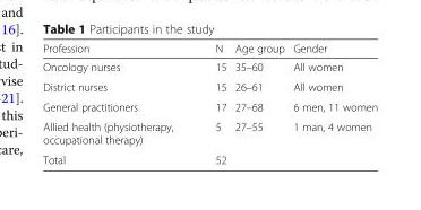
<table><thead><tr><td>Profession</td><td>N</td><td>Age group</td><td>Gender</td></tr></thead><tbody><tr><td>Oncology nurses</td><td>15</td><td>35–60</td><td>All women</td></tr><tr><td>District nurses</td><td>15</td><td>26–61</td><td>All women</td></tr><tr><td>General practitioners</td><td>17</td><td>27–68</td><td>6 men, 11 women</td></tr><tr><td>Allied health (physiotherapy, occupational therapy)</td><td>5</td><td>27–55</td><td>1 man, 4 women</td></tr><tr><td>Total</td><td>52</td><td></td><td></td></tr></tbody></table>